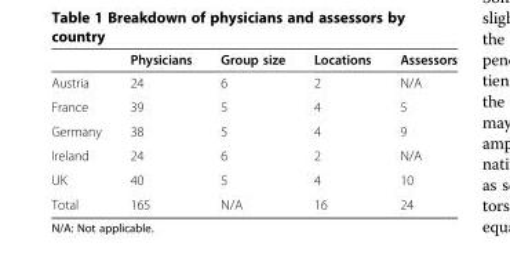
<table><thead><tr><td></td><td>Physicians</td><td>Group size</td><td>Locations</td><td>Assessors</td></tr></thead><tbody><tr><td>Austria</td><td>24</td><td>6</td><td>2</td><td>N/A</td></tr><tr><td>France</td><td>39</td><td>5</td><td>4</td><td>5</td></tr><tr><td>Germany</td><td>38</td><td>5</td><td>4</td><td>9</td></tr><tr><td>Ireland</td><td>24</td><td>6</td><td>2</td><td>N/A</td></tr><tr><td>UK</td><td>40</td><td>5</td><td>4</td><td>10</td></tr><tr><td>Total</td><td>165</td><td>N/A</td><td>16</td><td>24</td></tr></tbody></table>